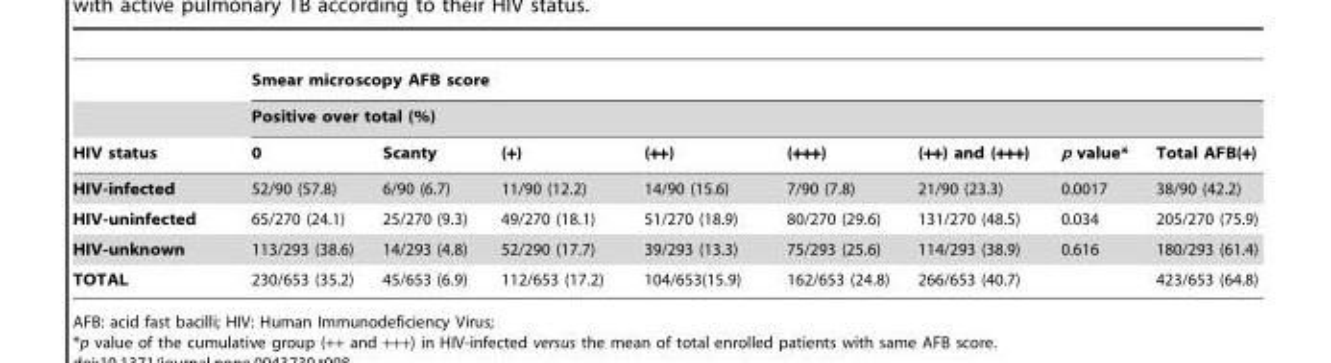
<table><thead><tr><td rowspan="3">HIV status</td><td rowspan="2" colspan="8">Smear microscopy AFB score Positive over total (%)</td></tr><tr></tr><tr><td>0</td><td>Scanty</td><td>(+)</td><td>(++)</td><td>(+++)</td><td>(++) and (+++)</td><td>p value*</td><td>Total AFB(+)</td></tr></thead><tbody><tr><td>HIV-infected</td><td>52/90 (57.8)</td><td>6/90 (6.7)</td><td>11/90 (12.2)</td><td>14/90 (15.6)</td><td>7/90 (7.8)</td><td>21/90 (23.3)</td><td>0.0017</td><td>38/90 (42.2)</td></tr><tr><td>HIV-uninfected</td><td>65/270 (24.1)</td><td>25/270 (9.3)</td><td>49/270 (18.1)</td><td>51/270 (18.9)</td><td>80/270 (29.6)</td><td>131/270 (48.5)</td><td>0.034</td><td>205/270 (75.9)</td></tr><tr><td>HIV-unknown</td><td>113/293 (38.6)</td><td>14/293 (4.8)</td><td>52/290 (17.7)</td><td>39/293 (13.3)</td><td>75/293 (25.6)</td><td>114/293 (38.9)</td><td>0.616</td><td>180/293 (61.4)</td></tr><tr><td>TOTAL</td><td>230/653 (35.2)</td><td>45/653 (6.9)</td><td>112/653 (17.2)</td><td>104/653(15.9)</td><td>162/653 (24.8)</td><td>266/653 (40.7)</td><td></td><td>423/653 (64.8)</td></tr></tbody></table>